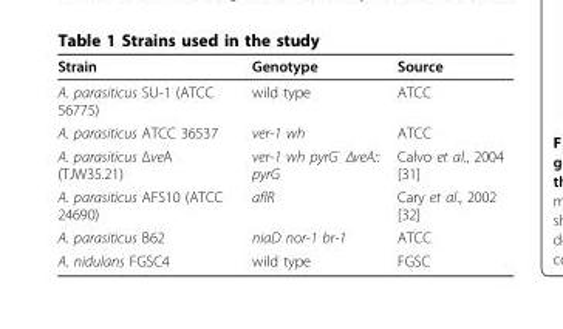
<table><thead><tr><td>Strain</td><td>Genotype</td><td>Source</td></tr></thead><tbody><tr><td>A. parasiticus SU-1 (ATCC 56775)</td><td>wild type</td><td>ATCC</td></tr><tr><td>A. parasiticus ATCC 36537</td><td>ver-1 wh</td><td>ATCC</td></tr><tr><td>A. parasiticus ΔveA (TJW35.21)</td><td>ver-1 wh pyrG<sup>-</sup> ΔveA:: pyrG</td><td>Calvo et al., 2004 [31]</td></tr><tr><td>A. parasiticus AFS10 (ATCC 24690)</td><td>aflR</td><td>Cary et al., 2002 [32]</td></tr><tr><td>A. parasiticus B62</td><td>niaD nor-1 br-1</td><td>ATCC</td></tr><tr><td>A. nidulans FGSC4</td><td>wild type</td><td>FGSC</td></tr></tbody></table>